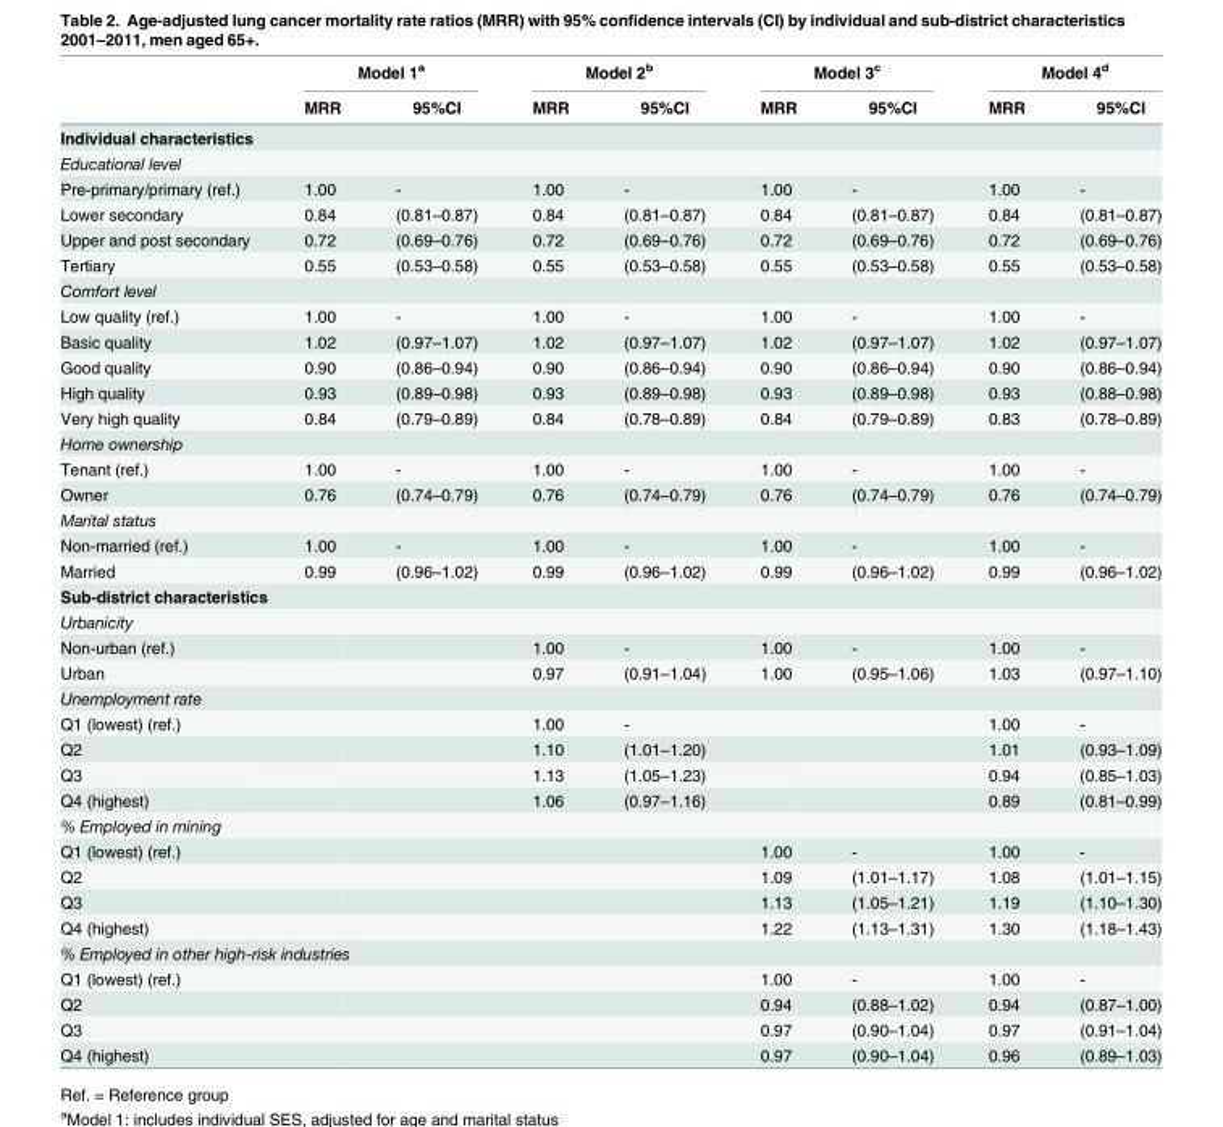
<table><thead><tr><td rowspan="2"></td><td colspan="2">Model 1<sup>a</sup></td><td colspan="2">Model 2<sup>b</sup></td><td colspan="2">Model 3<sup>c</sup></td><td colspan="2">Model 4<sup>d</sup></td></tr><tr><td>MRR</td><td>95%CI</td><td>MRR</td><td>95%CI</td><td>MRR</td><td>95%CI</td><td>MRR</td><td>95%CI</td></tr></thead><tbody><tr><td colspan="9">Individual characteristics</td></tr><tr><td colspan="9">Educational level</td></tr><tr><td>Pre-primary/primary (ref.)</td><td>1.00</td><td>-</td><td>1.00</td><td>-</td><td>1.00</td><td>-</td><td>1.00</td><td>-</td></tr><tr><td>Lower secondary</td><td>0.84</td><td>(0.81–0.87)</td><td>0.84</td><td>(0.81–0.87)</td><td>0.84</td><td>(0.81–0.87)</td><td>0.84</td><td>(0.81–0.87)</td></tr><tr><td>Upper and post secondary</td><td>0.72</td><td>(0.69–0.76)</td><td>0.72</td><td>(0.69–0.76)</td><td>0.72</td><td>(0.69–0.76)</td><td>0.72</td><td>(0.69–0.76)</td></tr><tr><td>Tertiary</td><td>0.55</td><td>(0.53–0.58)</td><td>0.55</td><td>(0.53–0.58)</td><td>0.55</td><td>(0.53–0.58)</td><td>0.55</td><td>(0.53–0.58)</td></tr><tr><td colspan="9">Comfort level</td></tr><tr><td>Low quality (ref.)</td><td>1.00</td><td>-</td><td>1.00</td><td>-</td><td>1.00</td><td>-</td><td>1.00</td><td>-</td></tr><tr><td>Basic quality</td><td>1.02</td><td>(0.97–1.07)</td><td>1.02</td><td>(0.97–1.07)</td><td>1.02</td><td>(0.97–1.07)</td><td>1.02</td><td>(0.97–1.07)</td></tr><tr><td>Good quality</td><td>0.90</td><td>(0.86–0.94)</td><td>0.90</td><td>(0.86–0.94)</td><td>0.90</td><td>(0.86–0.94)</td><td>0.90</td><td>(0.86–0.94)</td></tr><tr><td>High quality</td><td>0.93</td><td>(0.89–0.98)</td><td>0.93</td><td>(0.89–0.98)</td><td>0.93</td><td>(0.89–0.98)</td><td>0.93</td><td>(0.88–0.98)</td></tr><tr><td>Very high quality</td><td>0.84</td><td>(0.79–0.89)</td><td>0.84</td><td>(0.78–0.89)</td><td>0.84</td><td>(0.79–0.89)</td><td>0.83</td><td>(0.78–0.89)</td></tr><tr><td colspan="9">Home ownership</td></tr><tr><td>Tenant (ref.)</td><td>1.00</td><td>-</td><td>1.00</td><td>-</td><td>1.00</td><td>-</td><td>1.00</td><td>-</td></tr><tr><td>Owner</td><td>0.76</td><td>(0.74–0.79)</td><td>0.76</td><td>(0.74–0.79)</td><td>0.76</td><td>(0.74–0.79)</td><td>0.76</td><td>(0.74–0.79)</td></tr><tr><td colspan="9">Marital status</td></tr><tr><td>Non-married (ref.)</td><td>1.00</td><td>-</td><td>1.00</td><td>-</td><td>1.00</td><td>-</td><td>1.00</td><td>-</td></tr><tr><td>Married</td><td>0.99</td><td>(0.96–1.02)</td><td>0.99</td><td>(0.96–1.02)</td><td>0.99</td><td>(0.96–1.02)</td><td>0.99</td><td>(0.96–1.02)</td></tr><tr><td colspan="9">Sub-district characteristics</td></tr><tr><td colspan="9">Urbanicity</td></tr><tr><td>Non-urban (ref.)</td><td></td><td></td><td>1.00</td><td>-</td><td>1.00</td><td>-</td><td>1.00</td><td>-</td></tr><tr><td>Urban</td><td></td><td></td><td>0.97</td><td>(0.91–1.04)</td><td>1.00</td><td>(0.95–1.06)</td><td>1.03</td><td>(0.97–1.10)</td></tr><tr><td colspan="9">Unemployment rate</td></tr><tr><td>Q1 (lowest) (ref.)</td><td></td><td></td><td>1.00</td><td>-</td><td></td><td></td><td>1.00</td><td>-</td></tr><tr><td>Q2</td><td></td><td></td><td>1.10</td><td>(1.01–1.20)</td><td></td><td></td><td>1.01</td><td>(0.93–1.09)</td></tr><tr><td>Q3</td><td></td><td></td><td>1.13</td><td>(1.05–1.23)</td><td></td><td></td><td>0.94</td><td>(0.85–1.03)</td></tr><tr><td>Q4 (highest)</td><td></td><td></td><td>1.06</td><td>(0.97–1.16)</td><td></td><td></td><td>0.89</td><td>(0.81–0.99)</td></tr><tr><td colspan="9">% Employed in mining</td></tr><tr><td>Q1 (lowest) (ref.)</td><td></td><td></td><td></td><td></td><td>1.00</td><td>-</td><td>1.00</td><td>-</td></tr><tr><td>Q2</td><td></td><td></td><td></td><td></td><td>1.09</td><td>(1.01–1.17)</td><td>1.08</td><td>(1.01–1.15)</td></tr><tr><td>Q3</td><td></td><td></td><td></td><td></td><td>1.13</td><td>(1.05–1.21)</td><td>1.19</td><td>(1.10–1.30)</td></tr><tr><td>Q4 (highest)</td><td></td><td></td><td></td><td></td><td>1.22</td><td>(1.13–1.31)</td><td>1.30</td><td>(1.18–1.43)</td></tr><tr><td colspan="9">% Employed in other high-risk industries</td></tr><tr><td>Q1 (lowest) (ref.)</td><td></td><td></td><td></td><td></td><td>1.00</td><td>-</td><td>1.00</td><td>-</td></tr><tr><td>Q2</td><td></td><td></td><td></td><td></td><td>0.94</td><td>(0.88–1.02)</td><td>0.94</td><td>(0.87–1.00)</td></tr><tr><td>Q3</td><td></td><td></td><td></td><td></td><td>0.97</td><td>(0.90–1.04)</td><td>0.97</td><td>(0.91–1.04)</td></tr><tr><td>Q4 (highest)</td><td></td><td></td><td></td><td></td><td>0.97</td><td>(0.90–1.04)</td><td>0.96</td><td>(0.89–1.03)</td></tr></tbody></table>